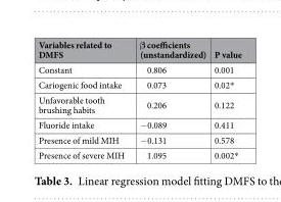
<table><thead><tr><td>Variables related to DMFS</td><td>β coefficients (unstandardized)</td><td>P value</td></tr></thead><tbody><tr><td>Constant</td><td>0.806</td><td>0.001</td></tr><tr><td>Cariogenic food intake</td><td>0.073</td><td>0.02*</td></tr><tr><td>Unfavorable tooth brushing habits</td><td>0.206</td><td>0.122</td></tr><tr><td>Fluoride intake</td><td>−0.089</td><td>0.411</td></tr><tr><td>Presence of mild MIH</td><td>−0.131</td><td>0.578</td></tr><tr><td>Presence of severe MIH</td><td>1.095</td><td>0.002*</td></tr></tbody></table>